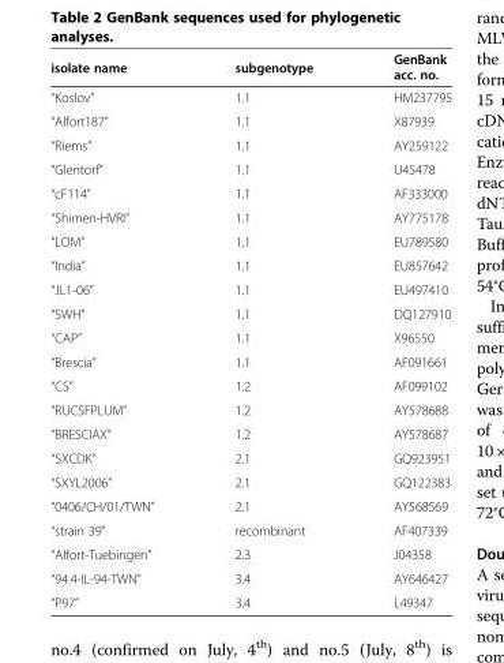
<table><thead><tr><td>isolate name</td><td>subgenotype</td><td>GenBank acc. no.</td></tr></thead><tbody><tr><td>“Koslov”</td><td>1.1</td><td>HM237795</td></tr><tr><td>“Alfort187”</td><td>1.1</td><td>X87939</td></tr><tr><td>“Riems”</td><td>1.1</td><td>AY259122</td></tr><tr><td>“Glentorf”</td><td>1.1</td><td>U45478</td></tr><tr><td>“cF114”</td><td>1.1</td><td>AF333000</td></tr><tr><td>“Shimen-HVRI”</td><td>1.1</td><td>AY775178</td></tr><tr><td>“LOM”</td><td>1.1</td><td>EU789580</td></tr><tr><td>“India”</td><td>1.1</td><td>EU857642</td></tr><tr><td>“JL1-06”</td><td>1.1</td><td>EU497410</td></tr><tr><td>“SWH”</td><td>1.1</td><td>DQ127910</td></tr><tr><td>“CAP”</td><td>1.1</td><td>X96550</td></tr><tr><td>“Brescia”</td><td>1.1</td><td>AF091661</td></tr><tr><td>“CS”</td><td>1.2</td><td>AF099102</td></tr><tr><td>“RUCSFPLUM”</td><td>1.2</td><td>AY578688</td></tr><tr><td>“BRESCIAX”</td><td>1.2</td><td>AY578687</td></tr><tr><td>“SXCDK”</td><td>2.1</td><td>GQ923951</td></tr><tr><td>“SXYL2006”</td><td>2.1</td><td>GQ122383</td></tr><tr><td>“0406/CH/01/TWN”</td><td>2.1</td><td>AY568569</td></tr><tr><td>“strain 39”</td><td>recombinant</td><td>AF407339</td></tr><tr><td>“Alfort-Tuebingen”</td><td>2.3</td><td>J04358</td></tr><tr><td>“94.4-IL-94-TWN”</td><td>3.4</td><td>AY646427</td></tr><tr><td>“P97”</td><td>3.4</td><td>L49347</td></tr></tbody></table>